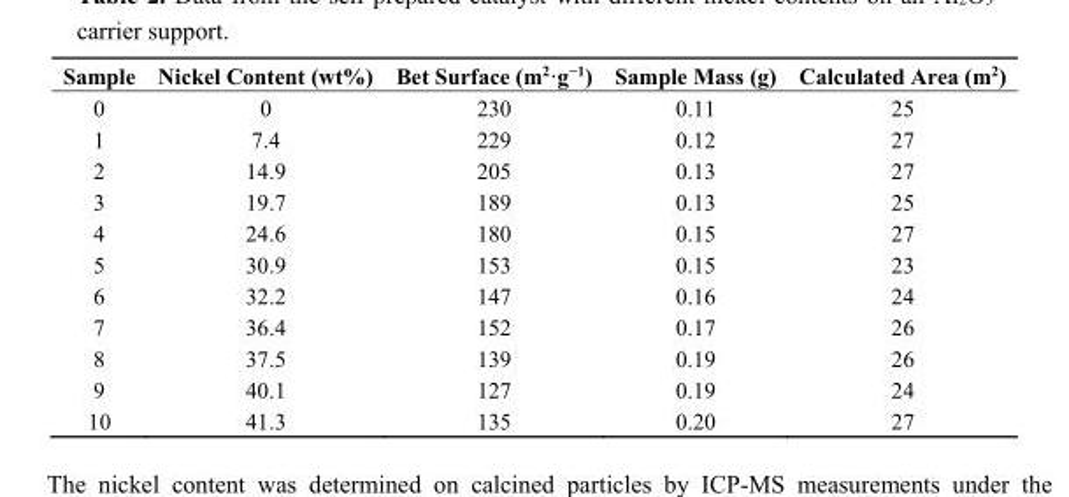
<table><thead><tr><td>Sample</td><td>Nickel Content (wt%)</td><td>Bet Surface (m<sup>2</sup>·g<sup>−1</sup>)</td><td>Sample Mass (g)</td><td>Calculated Area (m<sup>2</sup>)</td></tr></thead><tbody><tr><td>0</td><td>0</td><td>230</td><td>0.11</td><td>25</td></tr><tr><td>1</td><td>7.4</td><td>229</td><td>0.12</td><td>27</td></tr><tr><td>2</td><td>14.9</td><td>205</td><td>0.13</td><td>27</td></tr><tr><td>3</td><td>19.7</td><td>189</td><td>0.13</td><td>25</td></tr><tr><td>4</td><td>24.6</td><td>180</td><td>0.15</td><td>27</td></tr><tr><td>5</td><td>30.9</td><td>153</td><td>0.15</td><td>23</td></tr><tr><td>6</td><td>32.2</td><td>147</td><td>0.16</td><td>24</td></tr><tr><td>7</td><td>36.4</td><td>152</td><td>0.17</td><td>26</td></tr><tr><td>8</td><td>37.5</td><td>139</td><td>0.19</td><td>26</td></tr><tr><td>9</td><td>40.1</td><td>127</td><td>0.19</td><td>24</td></tr><tr><td>10</td><td>41.3</td><td>135</td><td>0.20</td><td>27</td></tr></tbody></table>